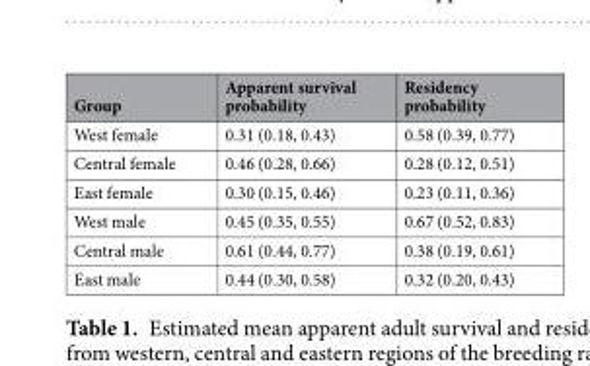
<table><thead><tr><td>Group</td><td>Apparent survival probability</td><td>Residency probability</td></tr></thead><tbody><tr><td>West female</td><td>0.31 (0.18, 0.43)</td><td>0.58 (0.39, 0.77)</td></tr><tr><td>Central female</td><td>0.46 (0.28, 0.66)</td><td>0.28 (0.12, 0.51)</td></tr><tr><td>East female</td><td>0.30 (0.15, 0.46)</td><td>0.23 (0.11, 0.36)</td></tr><tr><td>West male</td><td>0.45 (0.35, 0.55)</td><td>0.67 (0.52, 0.83)</td></tr><tr><td>Central male</td><td>0.61 (0.44, 0.77)</td><td>0.38 (0.19, 0.61)</td></tr><tr><td>East male</td><td>0.44 (0.30, 0.58)</td><td>0.32 (0.20, 0.43)</td></tr></tbody></table>